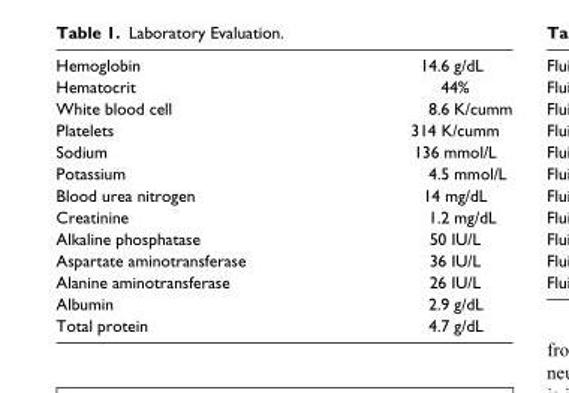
<table><tbody><tr><td>Hemoglobin</td><td>14.6 g/dL</td></tr><tr><td>Hematocrit</td><td>44%</td></tr><tr><td>White blood cell</td><td>8.6 K/cumm</td></tr><tr><td>Platelets</td><td>314 K/cumm</td></tr><tr><td>Sodium</td><td>136 mmol/L</td></tr><tr><td>Potassium</td><td>4.5 mmol/L</td></tr><tr><td>Blood urea nitrogen</td><td>14 mg/dL</td></tr><tr><td>Creatinine</td><td>1.2 mg/dL</td></tr><tr><td>Alkaline phosphatase</td><td>50 IU/L</td></tr><tr><td>Aspartate aminotransferase</td><td>36 IU/L</td></tr><tr><td>Alanine aminotransferase</td><td>26 IU/L</td></tr><tr><td>Albumin</td><td>2.9 g/dL</td></tr><tr><td>Total protein</td><td>4.7 g/dL</td></tr></tbody></table>